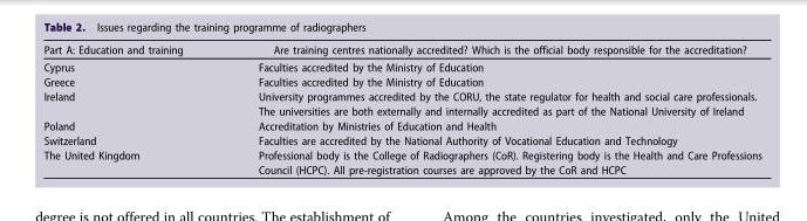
<table><thead><tr><td>Part A: Education and training</td><td>Are training centres nationally accredited? Which is the official body responsible for the accreditation?</td></tr></thead><tbody><tr><td>Cyprus</td><td>Faculties accredited by the Ministry of Education</td></tr><tr><td>Greece</td><td>Faculties accredited by the Ministry of Education</td></tr><tr><td>Ireland</td><td>University programmes accredited by the CORU, the state regulator for health and social care professionals. The universities are both externally and internally accredited as part of the National University of Ireland</td></tr><tr><td>Poland</td><td>Accreditation by Ministries of Education and Health</td></tr><tr><td>Switzerland</td><td>Faculties are accredited by the National Authority of Vocational Education and Technology</td></tr><tr><td>The United Kingdom</td><td>Professional body is the College of Radiographers (CoR). Registering body is the Health and Care Professions Council (HCPC). All pre-registration courses are approved by the CoR and HCPC</td></tr></tbody></table>